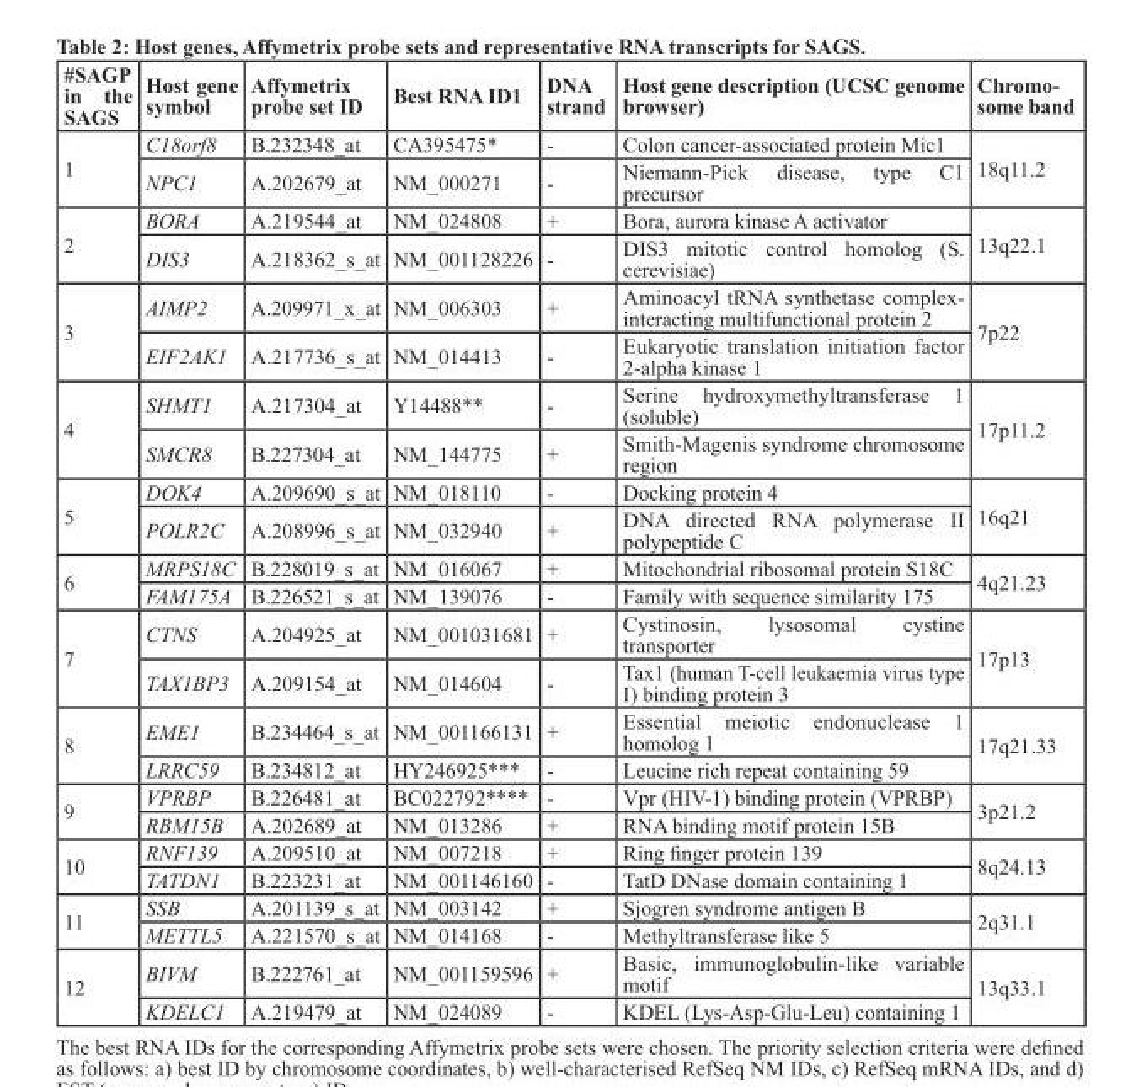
<table><thead><tr><td>#SAGP in the SAGS</td><td>Host gene symbol</td><td>Affymetrix probe set ID</td><td>Best RNA ID1</td><td>DNA strand</td><td>Host gene description (UCSC genome browser)</td><td>Chromo- some band</td></tr></thead><tbody><tr><td rowspan="2">1</td><td>C18orf8</td><td>B.232348_at</td><td>CA395475*</td><td>-</td><td>Colon cancer-associated protein Mic1</td><td rowspan="2">18q11.2</td></tr><tr><td>NPC1</td><td>A.202679_at</td><td>NM_000271</td><td>-</td><td>Niemann-Pick disease, type C1 precursor</td></tr><tr><td rowspan="2">2</td><td>BORA</td><td>A.219544_at</td><td>NM_024808</td><td>+</td><td>Bora, aurora kinase A activator</td><td rowspan="2">13q22.1</td></tr><tr><td>DIS3</td><td>A.218362_s_at</td><td>NM_001128226</td><td>-</td><td>DIS3 mitotic control homolog (S. cerevisiae)</td></tr><tr><td rowspan="2">3</td><td>AIMP2</td><td>A.209971_x_at</td><td>NM_006303</td><td>+</td><td>Aminoacyl tRNA synthetase complex- interacting multifunctional protein 2</td><td rowspan="2">7p22</td></tr><tr><td>EIF2AK1</td><td>A.217736_s_at</td><td>NM_014413</td><td>-</td><td>Eukaryotic translation initiation factor 2-alpha kinase 1</td></tr><tr><td rowspan="2">4</td><td>SHMT1</td><td>A.217304_at</td><td>Y14488**</td><td>-</td><td>Serine hydroxymethyltransferase 1 (soluble)</td><td rowspan="2">17p11.2</td></tr><tr><td>SMCR8</td><td>B.227304_at</td><td>NM_144775</td><td>+</td><td>Smith-Magenis syndrome chromosome region</td></tr><tr><td rowspan="2">5</td><td>DOK4</td><td>A.209690_s_at</td><td>NM_018110</td><td>-</td><td>Docking protein 4</td><td rowspan="2">16q21</td></tr><tr><td>POLR2C</td><td>A.208996_s_at</td><td>NM_032940</td><td>+</td><td>DNA directed RNA polymerase II polypeptide C</td></tr><tr><td rowspan="2">6</td><td>MRPS18C</td><td>B.228019_s_at</td><td>NM_016067</td><td>+</td><td>Mitochondrial ribosomal protein S18C</td><td rowspan="2">4q21.23</td></tr><tr><td>FAM175A</td><td>B.226521_s_at</td><td>NM_139076</td><td>-</td><td>Family with sequence similarity 175</td></tr><tr><td rowspan="2">7</td><td>CTNS</td><td>A.204925_at</td><td>NM_001031681</td><td>+</td><td>Cystinosin, lysosomal cystine transporter</td><td rowspan="2">17p13</td></tr><tr><td>TAX1BP3</td><td>A.209154_at</td><td>NM_014604</td><td>-</td><td>Tax1 (human T-cell leukaemia virus type I) binding protein 3</td></tr><tr><td rowspan="2">8</td><td>EME1</td><td>B.234464_s_at</td><td>NM_001166131</td><td>+</td><td>Essential meiotic endonuclease 1 homolog 1</td><td rowspan="2">17q21.33</td></tr><tr><td>LRRC59</td><td>B.234812_at</td><td>HY246925***</td><td>-</td><td>Leucine rich repeat containing 59</td></tr><tr><td rowspan="2">9</td><td>VPRBP</td><td>B.226481_at</td><td>BC022792****</td><td>-</td><td>Vpr (HIV-1) binding protein (VPRBP)</td><td rowspan="2">3p21.2</td></tr><tr><td>RBM15B</td><td>A.202689_at</td><td>NM_013286</td><td>+</td><td>RNA binding motif protein 15B</td></tr><tr><td rowspan="2">10</td><td>RNF139</td><td>A.209510_at</td><td>NM_007218</td><td>+</td><td>Ring finger protein 139</td><td rowspan="2">8q24.13</td></tr><tr><td>TATDN1</td><td>B.223231_at</td><td>NM_001146160</td><td>-</td><td>TatD DNase domain containing 1</td></tr><tr><td rowspan="2">11</td><td>SSB</td><td>A.201139_s_at</td><td>NM_003142</td><td>+</td><td>Sjogren syndrome antigen B</td><td rowspan="2">2q31.1</td></tr><tr><td>METTL5</td><td>A.221570_s_at</td><td>NM_014168</td><td>-</td><td>Methyltransferase like 5</td></tr><tr><td rowspan="2">12</td><td>BIVM</td><td>B.222761_at</td><td>NM_001159596</td><td>+</td><td>Basic, immunoglobulin-like variable motif</td><td rowspan="2">13q33.1</td></tr><tr><td>KDELC1</td><td>A.219479_at</td><td>NM_024089</td><td>-</td><td>KDEL (Lys-Asp-Glu-Leu) containing 1</td></tr></tbody></table>